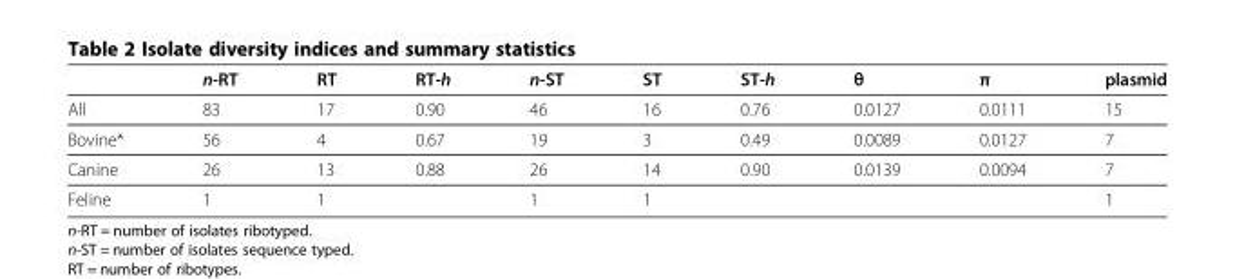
<table><thead><tr><td></td><td>n-RT</td><td>RT</td><td>RT-h</td><td>n-ST</td><td>ST</td><td>ST-h</td><td>θ</td><td>π</td><td>plasmid</td></tr></thead><tbody><tr><td>All</td><td>83</td><td>17</td><td>0.90</td><td>46</td><td>16</td><td>0.76</td><td>0.0127</td><td>0.0111</td><td>15</td></tr><tr><td>Bovine*</td><td>56</td><td>4</td><td>0.67</td><td>19</td><td>3</td><td>0.49</td><td>0.0089</td><td>0.0127</td><td>7</td></tr><tr><td>Canine</td><td>26</td><td>13</td><td>0.88</td><td>26</td><td>14</td><td>0.90</td><td>0.0139</td><td>0.0094</td><td>7</td></tr><tr><td>Feline</td><td>1</td><td>1</td><td></td><td>1</td><td>1</td><td></td><td></td><td></td><td>1</td></tr></tbody></table>